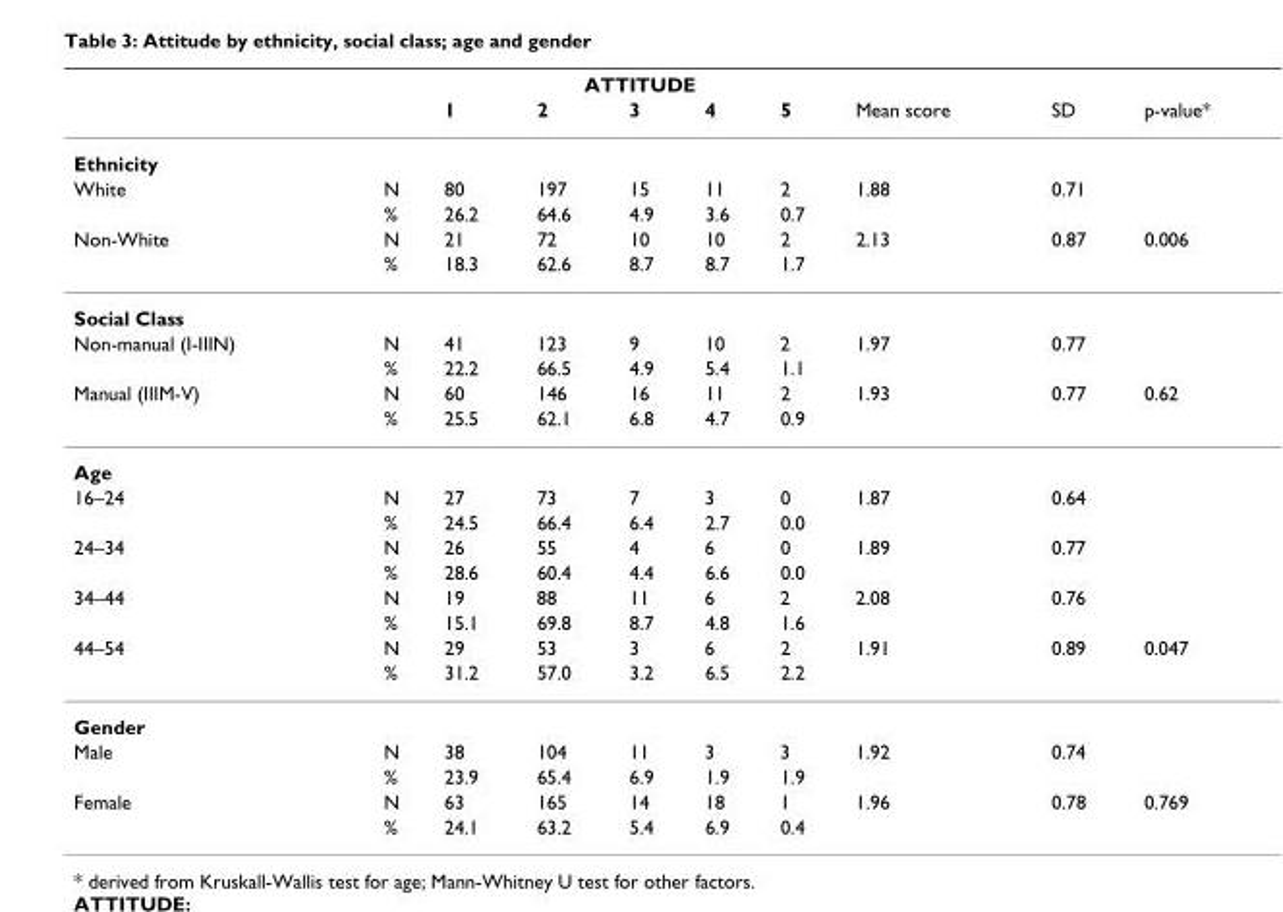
<table><thead><tr><td rowspan="2"></td><td rowspan="2"></td><td colspan="5">ATTITUDE</td><td rowspan="2">Mean score</td><td rowspan="2">SD</td><td rowspan="2">p-value*</td></tr><tr><td>1</td><td>2</td><td>3</td><td>4</td><td>5</td></tr></thead><tbody><tr><td colspan="10">Ethnicity</td></tr><tr><td rowspan="2">White</td><td>N</td><td>80</td><td>197</td><td>15</td><td>11</td><td>2</td><td>1.88</td><td>0.71</td><td></td></tr><tr><td>%</td><td>26.2</td><td>64.6</td><td>4.9</td><td>3.6</td><td>0.7</td><td></td><td></td><td></td></tr><tr><td rowspan="2">Non-White</td><td>N</td><td>21</td><td>72</td><td>10</td><td>10</td><td>2</td><td>2.13</td><td>0.87</td><td>0.006</td></tr><tr><td>%</td><td>18.3</td><td>62.6</td><td>8.7</td><td>8.7</td><td>1.7</td><td></td><td></td><td></td></tr><tr><td colspan="10">Social Class</td></tr><tr><td rowspan="2">Non-manual (I-IIIN)</td><td>N</td><td>41</td><td>123</td><td>9</td><td>10</td><td>2</td><td>1.97</td><td>0.77</td><td></td></tr><tr><td>%</td><td>22.2</td><td>66.5</td><td>4.9</td><td>5.4</td><td>1.1</td><td></td><td></td><td></td></tr><tr><td rowspan="2">Manual (IIIM-V)</td><td>N</td><td>60</td><td>146</td><td>16</td><td>11</td><td>2</td><td>1.93</td><td>0.77</td><td>0.62</td></tr><tr><td>%</td><td>25.5</td><td>62.1</td><td>6.8</td><td>4.7</td><td>0.9</td><td></td><td></td><td></td></tr><tr><td colspan="10">Age</td></tr><tr><td rowspan="2">16–24</td><td>N</td><td>27</td><td>73</td><td>7</td><td>3</td><td>0</td><td>1.87</td><td>0.64</td><td></td></tr><tr><td>%</td><td>24.5</td><td>66.4</td><td>6.4</td><td>2.7</td><td>0.0</td><td></td><td></td><td></td></tr><tr><td rowspan="2">24–34</td><td>N</td><td>26</td><td>55</td><td>4</td><td>6</td><td>0</td><td>1.89</td><td>0.77</td><td></td></tr><tr><td>%</td><td>28.6</td><td>60.4</td><td>4.4</td><td>6.6</td><td>0.0</td><td></td><td></td><td></td></tr><tr><td rowspan="2">34–44</td><td>N</td><td>19</td><td>88</td><td>11</td><td>6</td><td>2</td><td>2.08</td><td>0.76</td><td></td></tr><tr><td>%</td><td>15.1</td><td>69.8</td><td>8.7</td><td>4.8</td><td>1.6</td><td></td><td></td><td></td></tr><tr><td rowspan="2">44–54</td><td>N</td><td>29</td><td>53</td><td>3</td><td>6</td><td>2</td><td>1.91</td><td>0.89</td><td>0.047</td></tr><tr><td>%</td><td>31.2</td><td>57.0</td><td>3.2</td><td>6.5</td><td>2.2</td><td></td><td></td><td></td></tr><tr><td colspan="10">Gender</td></tr><tr><td rowspan="2">Male</td><td>N</td><td>38</td><td>104</td><td>11</td><td>3</td><td>3</td><td>1.92</td><td>0.74</td><td></td></tr><tr><td>%</td><td>23.9</td><td>65.4</td><td>6.9</td><td>1.9</td><td>1.9</td><td></td><td></td><td></td></tr><tr><td rowspan="2">Female</td><td>N</td><td>63</td><td>165</td><td>14</td><td>18</td><td>1</td><td>1.96</td><td>0.78</td><td>0.769</td></tr><tr><td>%</td><td>24.1</td><td>63.2</td><td>5.4</td><td>6.9</td><td>0.4</td><td></td><td></td><td></td></tr></tbody></table>